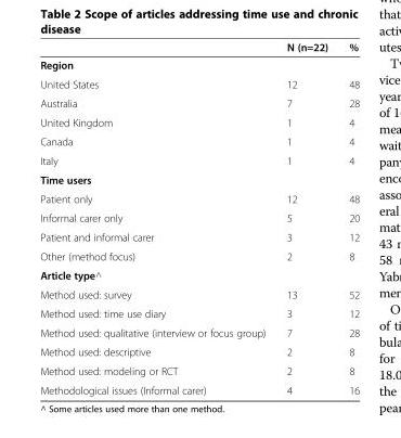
<table><thead><tr><td></td><td>N (n=22)</td><td>%</td></tr></thead><tbody><tr><td colspan="3">Region</td></tr><tr><td>United States</td><td>12</td><td>48</td></tr><tr><td>Australia</td><td>7</td><td>28</td></tr><tr><td>United Kingdom</td><td>1</td><td>4</td></tr><tr><td>Canada</td><td>1</td><td>4</td></tr><tr><td>Italy</td><td>1</td><td>4</td></tr><tr><td colspan="3">Time users</td></tr><tr><td>Patient only</td><td>12</td><td>48</td></tr><tr><td>Informal carer only</td><td>5</td><td>20</td></tr><tr><td>Patient and informal carer</td><td>3</td><td>12</td></tr><tr><td>Other (method focus)</td><td>2</td><td>8</td></tr><tr><td colspan="3">Article type^</td></tr><tr><td>Method used: survey</td><td>13</td><td>52</td></tr><tr><td>Method used: time use diary</td><td>3</td><td>12</td></tr><tr><td>Method used: qualitative (interview or focus group)</td><td>7</td><td>28</td></tr><tr><td>Method used: descriptive</td><td>2</td><td>8</td></tr><tr><td>Method used: modeling or RCT</td><td>2</td><td>8</td></tr><tr><td>Methodological issues (Informal carer)</td><td>4</td><td>16</td></tr></tbody></table>